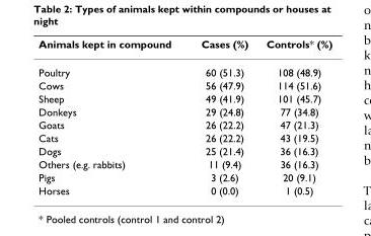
<table><thead><tr><td>Animals kept in compound</td><td>Cases (%)</td><td>Controls* (%)</td></tr></thead><tbody><tr><td>Poultry</td><td>60 (51.3)</td><td>108 (48.9)</td></tr><tr><td>Cows</td><td>56 (47.9)</td><td>114 (51.6)</td></tr><tr><td>Sheep</td><td>49 (41.9)</td><td>101 (45.7)</td></tr><tr><td>Donkeys</td><td>29 (24.8)</td><td>77 (34.8)</td></tr><tr><td>Goats</td><td>26 (22.2)</td><td>47 (21.3)</td></tr><tr><td>Cats</td><td>26 (22.2)</td><td>43 (19.5)</td></tr><tr><td>Dogs</td><td>25 (21.4)</td><td>36 (16.3)</td></tr><tr><td>Others (e.g. rabbits)</td><td>11 (9.4)</td><td>36 (16.3)</td></tr><tr><td>Pigs</td><td>3 (2.6)</td><td>20 (9.1)</td></tr><tr><td>Horses</td><td>0 (0.0)</td><td>1 (0.5)</td></tr></tbody></table>